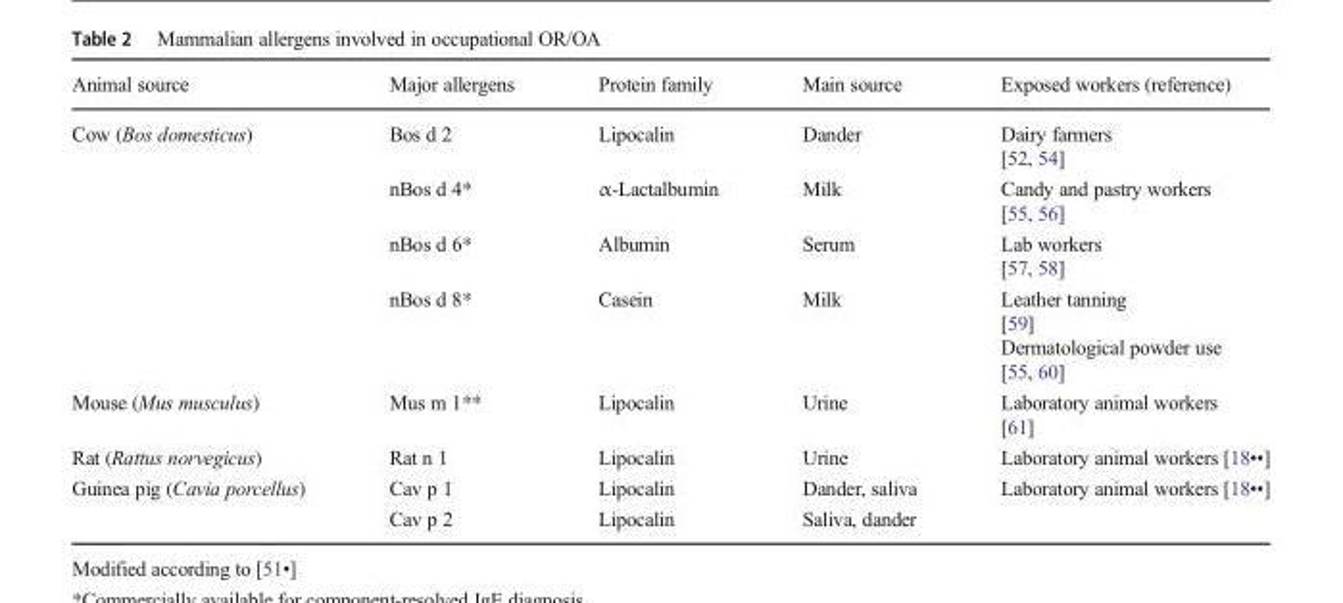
<table><thead><tr><td>Animal source</td><td>Major allergens</td><td>Protein family</td><td>Main source</td><td>Exposed workers (reference)</td></tr></thead><tbody><tr><td rowspan="4">Cow (Bos domesticus)</td><td>Bos d 2</td><td>Lipocalin</td><td>Dander</td><td>Dairy farmers [52, 54]</td></tr><tr><td>nBos d 4*</td><td>α-Lactalbumin</td><td>Milk</td><td>Candy and pastry workers [55, 56]</td></tr><tr><td>nBos d 6*</td><td>Albumin</td><td>Serum</td><td>Lab workers [57, 58]</td></tr><tr><td>nBos d 8*</td><td>Casein</td><td>Milk</td><td>Leather tanning [59] Dermatological powder use [55, 60]</td></tr><tr><td>Mouse (Mus musculus)</td><td>Mus m 1**</td><td>Lipocalin</td><td>Urine</td><td>Laboratory animal workers [61]</td></tr><tr><td>Rat (Rattus norvegicus)</td><td>Rat n 1</td><td>Lipocalin</td><td>Urine</td><td>Laboratory animal workers [18••]</td></tr><tr><td rowspan="2">Guinea pig (Cavia porcellus)</td><td>Cav p 1</td><td>Lipocalin</td><td>Dander, saliva</td><td>Laboratory animal workers [18••]</td></tr><tr><td>Cav p 2</td><td>Lipocalin</td><td>Saliva, dander</td><td></td></tr></tbody></table>